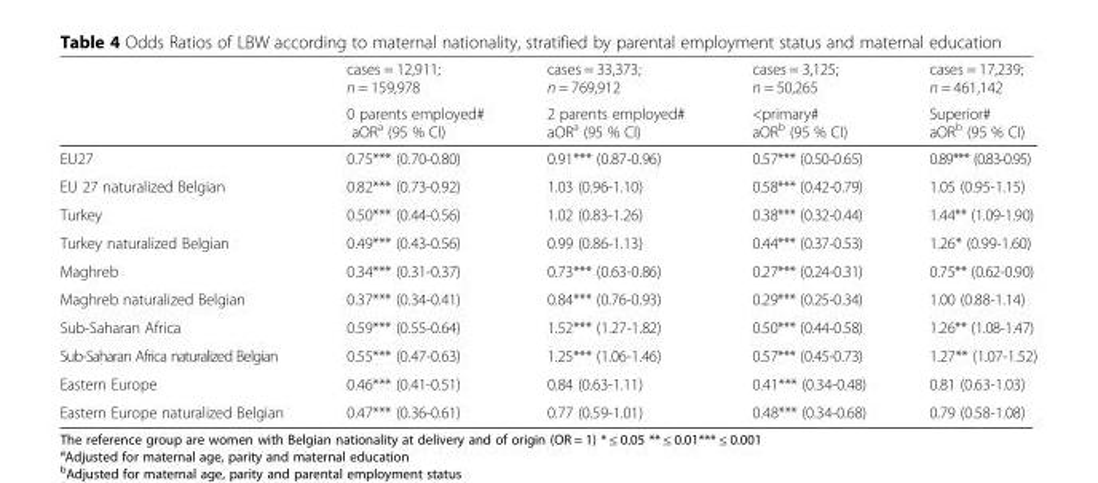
<table><thead><tr><td rowspan="2"></td><td rowspan="2">cases = 12,911; n = 159,978 0 parents employed# aOR<sup>a</sup> (95 % CI)</td><td rowspan="2">cases = 33,373; n = 769,912 2 parents employed# aOR<sup>a</sup> (95 % CI)</td><td rowspan="2">cases = 3,125; n = 50,265 &lt;primary# aOR<sup>b</sup> (95 % CI)</td><td rowspan="2">cases = 17,239; n = 461,142 Superior# aOR<sup>b</sup> (95 % CI)</td></tr><tr></tr></thead><tbody><tr><td>EU27</td><td>0.75*** (0.70-0.80)</td><td>0.91*** (0.87-0.96)</td><td>0.57*** (0.50-0.65)</td><td>0.89*** (0.83-0.95)</td></tr><tr><td>EU 27 naturalized Belgian</td><td>0.82*** (0.73-0.92)</td><td>1.03 (0.96-1.10)</td><td>0.58*** (0.42-0.79)</td><td>1.05 (0.95-1.15)</td></tr><tr><td>Turkey</td><td>0.50*** (0.44-0.56)</td><td>1.02 (0.83-1.26)</td><td>0.38*** (0.32-0.44)</td><td>1.44** (1.09-1.90)</td></tr><tr><td>Turkey naturalized Belgian</td><td>0.49*** (0.43-0.56)</td><td>0.99 (0.86-1.13)</td><td>0.44*** (0.37-0.53)</td><td>1.26* (0.99-1.60)</td></tr><tr><td>Maghreb</td><td>0.34*** (0.31-0.37)</td><td>0.73*** (0.63-0.86)</td><td>0.27*** (0.24-0.31)</td><td>0.75** (0.62-0.90)</td></tr><tr><td>Maghreb naturalized Belgian</td><td>0.37*** (0.34-0.41)</td><td>0.84*** (0.76-0.93)</td><td>0.29*** (0.25-0.34)</td><td>1.00 (0.88-1.14)</td></tr><tr><td>Sub-Saharan Africa</td><td>0.59*** (0.55-0.64)</td><td>1.52*** (1.27-1.82)</td><td>0.50*** (0.44-0.58)</td><td>1.26** (1.08-1.47)</td></tr><tr><td>Sub-Saharan Africa naturalized Belgian</td><td>0.55*** (0.47-0.63)</td><td>1.25*** (1.06-1.46)</td><td>0.57*** (0.45-0.73)</td><td>1.27** (1.07-1.52)</td></tr><tr><td>Eastern Europe</td><td>0.46*** (0.41-0.51)</td><td>0.84 (0.63-1.11)</td><td>0.41*** (0.34-0.48)</td><td>0.81 (0.63-1.03)</td></tr><tr><td>Eastern Europe naturalized Belgian</td><td>0.47*** (0.36-0.61)</td><td>0.77 (0.59-1.01)</td><td>0.48*** (0.34-0.68)</td><td>0.79 (0.58-1.08)</td></tr></tbody></table>